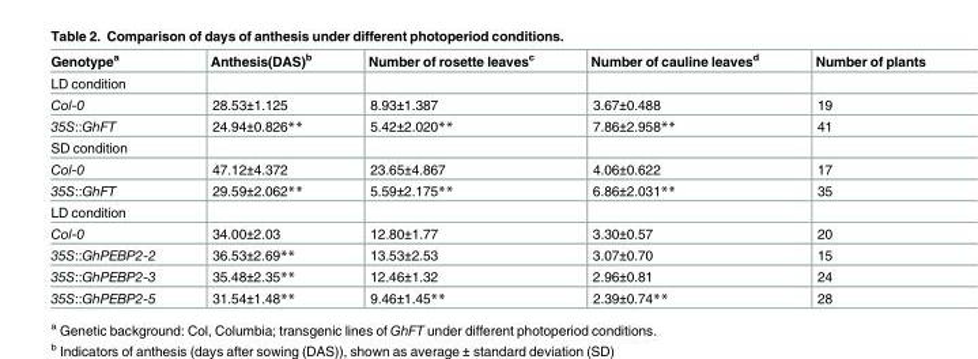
<table><thead><tr><td>Genotype<sup>a</sup></td><td>Anthesis(DAS)<sup>b</sup></td><td>Number of rosette leaves<sup>c</sup></td><td>Number of cauline leaves<sup>d</sup></td><td>Number of plants</td></tr></thead><tbody><tr><td colspan="5">LD condition</td></tr><tr><td>Col-0</td><td>28.53±1.125</td><td>8.93±1.387</td><td>3.67±0.488</td><td>19</td></tr><tr><td>35S::GhFT</td><td>24.94±0.826**</td><td>5.42±2.020**</td><td>7.86±2.958**</td><td>41</td></tr><tr><td colspan="5">SD condition</td></tr><tr><td>Col-0</td><td>47.12±4.372</td><td>23.65±4.867</td><td>4.06±0.622</td><td>17</td></tr><tr><td>35S::GhFT</td><td>29.59±2.062**</td><td>5.59±2.175**</td><td>6.86±2.031**</td><td>35</td></tr><tr><td colspan="5">LD condition</td></tr><tr><td>Col-0</td><td>34.00±2.03</td><td>12.80±1.77</td><td>3.30±0.57</td><td>20</td></tr><tr><td>35S::GhPEBP2-2</td><td>36.53±2.69**</td><td>13.53±2.53</td><td>3.07±0.70</td><td>15</td></tr><tr><td>35S::GhPEBP2-3</td><td>35.48±2.35**</td><td>12.46±1.32</td><td>2.96±0.81</td><td>24</td></tr><tr><td>35S::GhPEBP2-5</td><td>31.54±1.48**</td><td>9.46±1.45**</td><td>2.39±0.74**</td><td>28</td></tr></tbody></table>